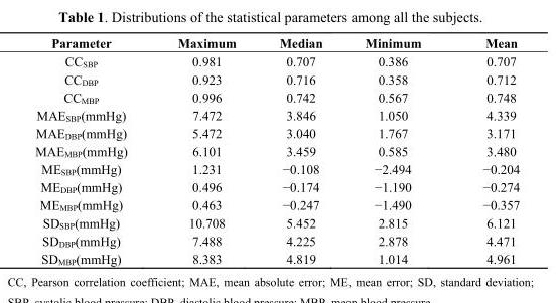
<table><thead><tr><td>Parameter</td><td>Maximum</td><td>Median</td><td>Minimum</td><td>Mean</td></tr></thead><tbody><tr><td>CC<sub>SBP</sub></td><td>0.981</td><td>0.707</td><td>0.386</td><td>0.707</td></tr><tr><td>CC<sub>DBP</sub></td><td>0.923</td><td>0.716</td><td>0.358</td><td>0.712</td></tr><tr><td>CC<sub>MBP</sub></td><td>0.996</td><td>0.742</td><td>0.567</td><td>0.748</td></tr><tr><td>MAE<sub>SBP</sub>(mmHg)</td><td>7.472</td><td>3.846</td><td>1.050</td><td>4.339</td></tr><tr><td>MAE<sub>DBP</sub>(mmHg)</td><td>5.472</td><td>3.040</td><td>1.767</td><td>3.171</td></tr><tr><td>MAE<sub>MBP</sub>(mmHg)</td><td>6.101</td><td>3.459</td><td>0.585</td><td>3.480</td></tr><tr><td>ME<sub>SBP</sub>(mmHg)</td><td>1.231</td><td>−0.108</td><td>−2.494</td><td>−0.204</td></tr><tr><td>ME<sub>DBP</sub>(mmHg)</td><td>0.496</td><td>−0.174</td><td>−1.190</td><td>−0.274</td></tr><tr><td>ME<sub>MBP</sub>(mmHg)</td><td>0.463</td><td>−0.247</td><td>−1.490</td><td>−0.357</td></tr><tr><td>SD<sub>SBP</sub>(mmHg)</td><td>10.708</td><td>5.452</td><td>2.815</td><td>6.121</td></tr><tr><td>SD<sub>DBP</sub>(mmHg)</td><td>7.488</td><td>4.225</td><td>2.878</td><td>4.471</td></tr><tr><td>SD<sub>MBP</sub>(mmHg)</td><td>8.383</td><td>4.819</td><td>1.014</td><td>4.961</td></tr></tbody></table>